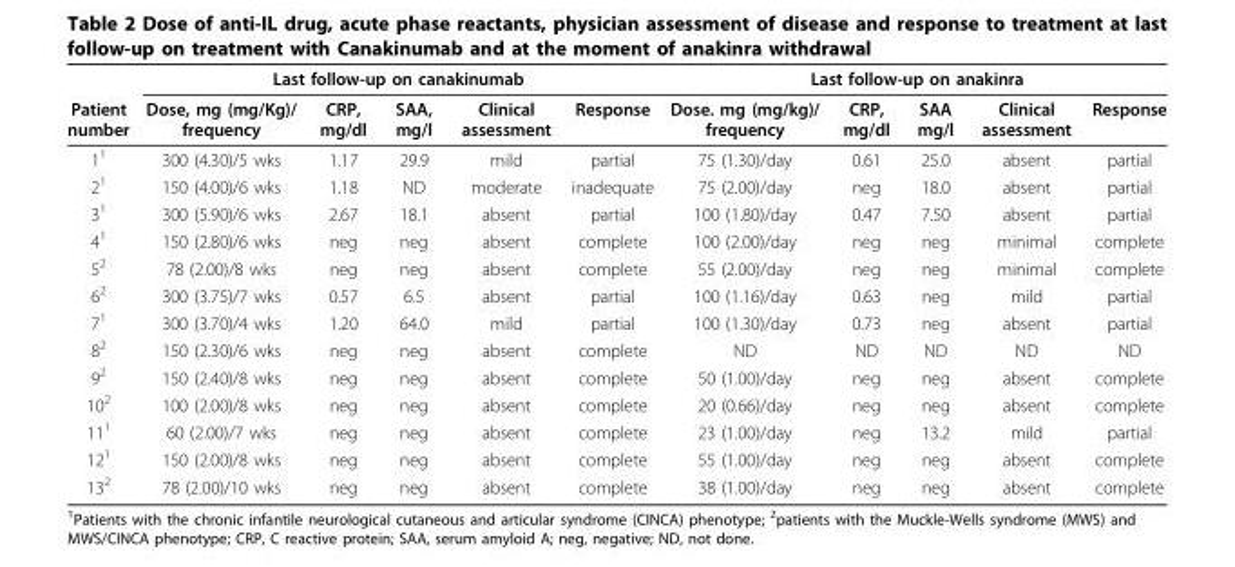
<table><thead><tr><td rowspan="2">Patient number</td><td colspan="5">Last follow-up on canakinumab</td><td colspan="5">Last follow-up on anakinra</td></tr><tr><td>Dose, mg (mg/Kg)/ frequency</td><td>CRP, mg/dl</td><td>SAA, mg/l</td><td>Clinical assessment</td><td>Response</td><td>Dose. mg (mg/kg)/ frequency</td><td>CRP, mg/dl</td><td>SAA mg/l</td><td>Clinical assessment</td><td>Response</td></tr></thead><tbody><tr><td>1<sup>1</sup></td><td>300 (4.30)/5 wks</td><td>1.17</td><td>29.9</td><td>mild</td><td>partial</td><td>75 (1.30)/day</td><td>0.61</td><td>25.0</td><td>absent</td><td>partial</td></tr><tr><td>2<sup>1</sup></td><td>150 (4.00)/6 wks</td><td>1.18</td><td>ND</td><td>moderate</td><td>inadequate</td><td>75 (2.00)/day</td><td>neg</td><td>18.0</td><td>absent</td><td>partial</td></tr><tr><td>3<sup>1</sup></td><td>300 (5.90)/6 wks</td><td>2.67</td><td>18.1</td><td>absent</td><td>partial</td><td>100 (1.80)/day</td><td>0.47</td><td>7.50</td><td>absent</td><td>partial</td></tr><tr><td>4<sup>1</sup></td><td>150 (2.80)/6 wks</td><td>neg</td><td>neg</td><td>absent</td><td>complete</td><td>100 (2.00)/day</td><td>neg</td><td>neg</td><td>minimal</td><td>complete</td></tr><tr><td>5<sup>2</sup></td><td>78 (2.00)/8 wks</td><td>neg</td><td>neg</td><td>absent</td><td>complete</td><td>55 (2.00)/day</td><td>neg</td><td>neg</td><td>minimal</td><td>complete</td></tr><tr><td>6<sup>2</sup></td><td>300 (3.75)/7 wks</td><td>0.57</td><td>6.5</td><td>absent</td><td>partial</td><td>100 (1.16)/day</td><td>0.63</td><td>neg</td><td>mild</td><td>partial</td></tr><tr><td>7<sup>1</sup></td><td>300 (3.70)/4 wks</td><td>1.20</td><td>64.0</td><td>mild</td><td>partial</td><td>100 (1.30)/day</td><td>0.73</td><td>neg</td><td>absent</td><td>partial</td></tr><tr><td>8<sup>2</sup></td><td>150 (2.30)/6 wks</td><td>neg</td><td>neg</td><td>absent</td><td>complete</td><td>ND</td><td>ND</td><td>ND</td><td>ND</td><td>ND</td></tr><tr><td>9<sup>2</sup></td><td>150 (2.40)/8 wks</td><td>neg</td><td>neg</td><td>absent</td><td>complete</td><td>50 (1.00)/day</td><td>neg</td><td>neg</td><td>absent</td><td>complete</td></tr><tr><td>10<sup>2</sup></td><td>100 (2.00)/8 wks</td><td>neg</td><td>neg</td><td>absent</td><td>complete</td><td>20 (0.66)/day</td><td>neg</td><td>neg</td><td>absent</td><td>complete</td></tr><tr><td>11<sup>1</sup></td><td>60 (2.00)/7 wks</td><td>neg</td><td>neg</td><td>absent</td><td>complete</td><td>23 (1.00)/day</td><td>neg</td><td>13.2</td><td>mild</td><td>partial</td></tr><tr><td>12<sup>1</sup></td><td>150 (2.00)/8 wks</td><td>neg</td><td>neg</td><td>absent</td><td>complete</td><td>55 (1.00)/day</td><td>neg</td><td>neg</td><td>absent</td><td>complete</td></tr><tr><td>13<sup>2</sup></td><td>78 (2.00)/10 wks</td><td>neg</td><td>neg</td><td>absent</td><td>complete</td><td>38 (1.00)/day</td><td>neg</td><td>neg</td><td>absent</td><td>complete</td></tr></tbody></table>